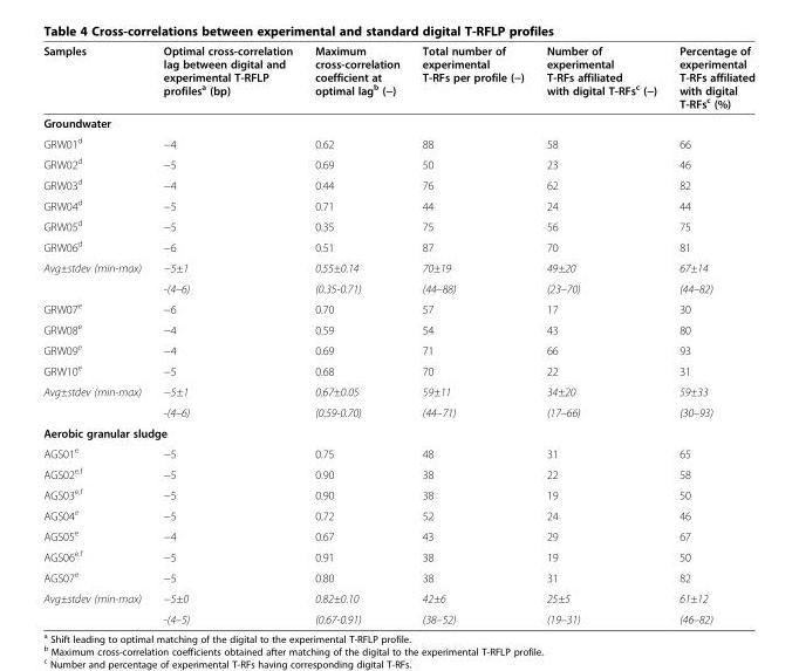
<table><thead><tr><td>Samples</td><td>Optimal cross-correlation lag between digital and experimental T-RFLP profiles<sup>a</sup> (bp)</td><td>Maximum cross-correlation coefficient at optimal lag<sup>b</sup> (−)</td><td>Total number of experimental T-RFs per profile (−)</td><td>Number of experimental T-RFs affiliated with digital T-RFs<sup>c</sup> (−)</td><td>Percentage of experimental T-RFs affiliated with digital T-RFs<sup>c</sup> (%)</td></tr></thead><tbody><tr><td colspan="6">Groundwater</td></tr><tr><td>GRW01<sup>d</sup></td><td>−4</td><td>0.62</td><td>88</td><td>58</td><td>66</td></tr><tr><td>GRW02<sup>d</sup></td><td>−5</td><td>0.69</td><td>50</td><td>23</td><td>46</td></tr><tr><td>GRW03<sup>d</sup></td><td>−4</td><td>0.44</td><td>76</td><td>62</td><td>82</td></tr><tr><td>GRW04<sup>d</sup></td><td>−5</td><td>0.71</td><td>44</td><td>24</td><td>44</td></tr><tr><td>GRW05<sup>d</sup></td><td>−5</td><td>0.35</td><td>75</td><td>56</td><td>75</td></tr><tr><td>GRW06<sup>d</sup></td><td>−6</td><td>0.51</td><td>87</td><td>70</td><td>81</td></tr><tr><td rowspan="2">Avg±stdev (min-max)</td><td>−5±1</td><td>0.55±0.14</td><td>70±19</td><td>49±20</td><td>67±14</td></tr><tr><td>-(4–6)</td><td>(0.35-0.71)</td><td>(44–88)</td><td>(23–70)</td><td>(44–82)</td></tr><tr><td>GRW07<sup>e</sup></td><td>−6</td><td>0.70</td><td>57</td><td>17</td><td>30</td></tr><tr><td>GRW08<sup>e</sup></td><td>−4</td><td>0.59</td><td>54</td><td>43</td><td>80</td></tr><tr><td>GRW09<sup>e</sup></td><td>−4</td><td>0.69</td><td>71</td><td>66</td><td>93</td></tr><tr><td>GRW10<sup>e</sup></td><td>−5</td><td>0.68</td><td>70</td><td>22</td><td>31</td></tr><tr><td rowspan="2">Avg±stdev (min-max)</td><td>−5±1</td><td>0.67±0.05</td><td>59±11</td><td>34±20</td><td>59±33</td></tr><tr><td>-(4–6)</td><td>(0.59-0.70)</td><td>(44–71)</td><td>(17–66)</td><td>(30–93)</td></tr><tr><td colspan="6">Aerobic granular sludge</td></tr><tr><td>AGS01<sup>e</sup></td><td>−5</td><td>0.75</td><td>48</td><td>31</td><td>65</td></tr><tr><td>AGS02<sup>e,f</sup></td><td>−5</td><td>0.90</td><td>38</td><td>22</td><td>58</td></tr><tr><td>AGS03<sup>e,f</sup></td><td>−5</td><td>0.90</td><td>38</td><td>19</td><td>50</td></tr><tr><td>AGS04<sup>e</sup></td><td>−5</td><td>0.72</td><td>52</td><td>24</td><td>46</td></tr><tr><td>AGS05<sup>e</sup></td><td>−4</td><td>0.67</td><td>43</td><td>29</td><td>67</td></tr><tr><td>AGS06<sup>e,f</sup></td><td>−5</td><td>0.91</td><td>38</td><td>19</td><td>50</td></tr><tr><td>AGS07<sup>e</sup></td><td>−5</td><td>0.80</td><td>38</td><td>31</td><td>82</td></tr><tr><td rowspan="2">Avg±stdev (min-max)</td><td>−5±0</td><td>0.82±0.10</td><td>42±6</td><td>25±5</td><td>61±12</td></tr><tr><td>-(4–5)</td><td>(0.67-0.91)</td><td>(38–52)</td><td>(19–31)</td><td>(46–82)</td></tr></tbody></table>